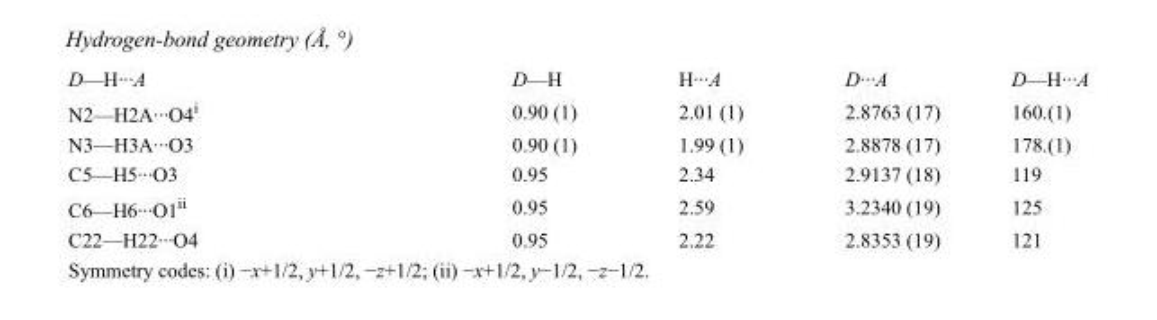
<table><tbody><tr><td>D—H···A</td><td>D—H</td><td>H···A</td><td>D···A</td><td>D—H···A</td></tr><tr><td>N2—H2A···O4<sup>i</sup></td><td>0.90 (1)</td><td>2.01 (1)</td><td>2.8763 (17)</td><td>160.(1)</td></tr><tr><td>N3—H3A···O3</td><td>0.90 (1)</td><td>1.99 (1)</td><td>2.8878 (17)</td><td>178.(1)</td></tr><tr><td>C5—H5···O3</td><td>0.95</td><td>2.34</td><td>2.9137 (18)</td><td>119</td></tr><tr><td>C6—H6···O1<sup>ii</sup></td><td>0.95</td><td>2.59</td><td>3.2340 (19)</td><td>125</td></tr><tr><td>C22—H22···O4</td><td>0.95</td><td>2.22</td><td>2.8353 (19)</td><td>121</td></tr></tbody></table>